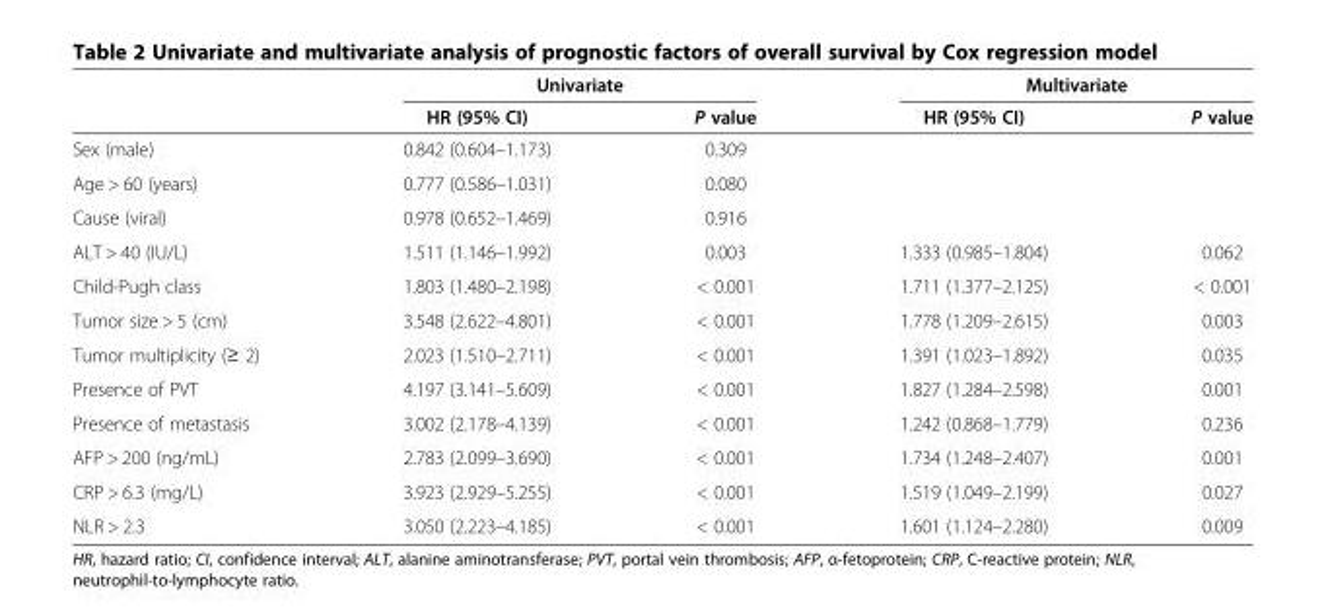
<table><thead><tr><td rowspan="2"></td><td colspan="2">Univariate</td><td colspan="2">Multivariate</td></tr><tr><td>HR (95% CI)</td><td>P value</td><td>HR (95% CI)</td><td>P value</td></tr></thead><tbody><tr><td>Sex (male)</td><td>0.842 (0.604–1.173)</td><td>0.309</td><td></td><td></td></tr><tr><td>Age &gt; 60 (years)</td><td>0.777 (0.586–1.031)</td><td>0.080</td><td></td><td></td></tr><tr><td>Cause (viral)</td><td>0.978 (0.652–1.469)</td><td>0.916</td><td></td><td></td></tr><tr><td>ALT &gt; 40 (IU/L)</td><td>1.511 (1.146–1.992)</td><td>0.003</td><td>1.333 (0.985–1.804)</td><td>0.062</td></tr><tr><td>Child-Pugh class</td><td>1.803 (1.480–2.198)</td><td>&lt; 0.001</td><td>1.711 (1.377–2.125)</td><td>&lt; 0.001</td></tr><tr><td>Tumor size &gt; 5 (cm)</td><td>3.548 (2.622–4.801)</td><td>&lt; 0.001</td><td>1.778 (1.209–2.615)</td><td>0.003</td></tr><tr><td>Tumor multiplicity (≥ 2)</td><td>2.023 (1.510–2.711)</td><td>&lt; 0.001</td><td>1.391 (1.023–1.892)</td><td>0.035</td></tr><tr><td>Presence of PVT</td><td>4.197 (3.141–5.609)</td><td>&lt; 0.001</td><td>1.827 (1.284–2.598)</td><td>0.001</td></tr><tr><td>Presence of metastasis</td><td>3.002 (2.178–4.139)</td><td>&lt; 0.001</td><td>1.242 (0.868–1.779)</td><td>0.236</td></tr><tr><td>AFP &gt; 200 (ng/mL)</td><td>2.783 (2.099–3.690)</td><td>&lt; 0.001</td><td>1.734 (1.248–2.407)</td><td>0.001</td></tr><tr><td>CRP &gt; 6.3 (mg/L)</td><td>3.923 (2.929–5.255)</td><td>&lt; 0.001</td><td>1.519 (1.049–2.199)</td><td>0.027</td></tr><tr><td>NLR &gt; 2.3</td><td>3.050 (2.223–4.185)</td><td>&lt; 0.001</td><td>1.601 (1.124–2.280)</td><td>0.009</td></tr></tbody></table>